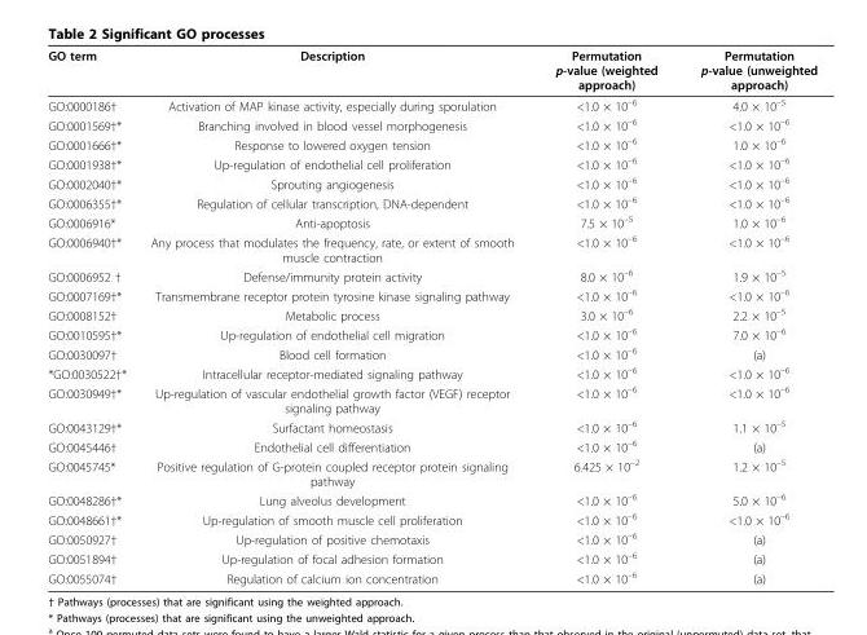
<table><thead><tr><td>GO term</td><td>Description</td><td>Permutation p-value (weighted approach)</td><td>Permutation p-value (unweighted approach)</td></tr></thead><tbody><tr><td>GO:0000186†</td><td>Activation of MAP kinase activity, especially during sporulation</td><td>&lt;1.0 × 10<sup>–6</sup></td><td>4.0 × 10<sup>–5</sup></td></tr><tr><td>GO:0001569†*</td><td>Branching involved in blood vessel morphogenesis</td><td>&lt;1.0 × 10<sup>–6</sup></td><td>&lt;1.0 × 10<sup>–6</sup></td></tr><tr><td>GO:0001666†*</td><td>Response to lowered oxygen tension</td><td>&lt;1.0 × 10<sup>–6</sup></td><td>1.0 × 10<sup>–6</sup></td></tr><tr><td>GO:0001938†*</td><td>Up-regulation of endothelial cell proliferation</td><td>&lt;1.0 × 10<sup>–6</sup></td><td>&lt;1.0 × 10<sup>–6</sup></td></tr><tr><td>GO:0002040†*</td><td>Sprouting angiogenesis</td><td>&lt;1.0 × 10<sup>–6</sup></td><td>&lt;1.0 × 10<sup>–6</sup></td></tr><tr><td>GO:0006355†*</td><td>Regulation of cellular transcription, DNA-dependent</td><td>&lt;1.0 × 10<sup>–6</sup></td><td>&lt;1.0 × 10<sup>–6</sup></td></tr><tr><td>GO:0006916*</td><td>Anti-apoptosis</td><td>7.5 × 10<sup>–5</sup></td><td>1.0 × 10<sup>–6</sup></td></tr><tr><td>GO:0006940†*</td><td>Any process that modulates the frequency, rate, or extent of smooth muscle contraction</td><td>&lt;1.0 × 10<sup>–6</sup></td><td>&lt;1.0 × 10<sup>–6</sup></td></tr><tr><td>GO:0006952 †</td><td>Defense/immunity protein activity</td><td>8.0 × 10<sup>–6</sup></td><td>1.9 × 10<sup>–5</sup></td></tr><tr><td>GO:0007169†*</td><td>Transmembrane receptor protein tyrosine kinase signaling pathway</td><td>&lt;1.0 × 10<sup>–6</sup></td><td>&lt;1.0 × 10<sup>–6</sup></td></tr><tr><td>GO:0008152†</td><td>Metabolic process</td><td>3.0 × 10<sup>–6</sup></td><td>2.2 × 10<sup>–5</sup></td></tr><tr><td>GO:0010595†*</td><td>Up-regulation of endothelial cell migration</td><td>&lt;1.0 × 10<sup>–6</sup></td><td>7.0 × 10<sup>–6</sup></td></tr><tr><td>GO:0030097†</td><td>Blood cell formation</td><td>&lt;1.0 × 10<sup>–6</sup></td><td>(a)</td></tr><tr><td>*GO:0030522†*</td><td>Intracellular receptor-mediated signaling pathway</td><td>&lt;1.0 × 10<sup>–6</sup></td><td>&lt;1.0 × 10<sup>–6</sup></td></tr><tr><td>GO:0030949†*</td><td>Up-regulation of vascular endothelial growth factor (VEGF) receptor signaling pathway</td><td>&lt;1.0 × 10<sup>–6</sup></td><td>&lt;1.0 × 10<sup>–6</sup></td></tr><tr><td>GO:0043129†*</td><td>Surfactant homeostasis</td><td>&lt;1.0 × 10<sup>–6</sup></td><td>1.1 × 10<sup>–5</sup></td></tr><tr><td>GO:0045446†</td><td>Endothelial cell differentiation</td><td>&lt;1.0 × 10<sup>–6</sup></td><td>(a)</td></tr><tr><td>GO:0045745*</td><td>Positive regulation of G-protein coupled receptor protein signaling pathway</td><td>6.425 × 10<sup>–2</sup></td><td>1.2 × 10<sup>–5</sup></td></tr><tr><td>GO:0048286†*</td><td>Lung alveolus development</td><td>&lt;1.0 × 10<sup>–6</sup></td><td>5.0 × 10<sup>–6</sup></td></tr><tr><td>GO:0048661†*</td><td>Up-regulation of smooth muscle cell proliferation</td><td>&lt;1.0 × 10<sup>–6</sup></td><td>&lt;1.0 × 10<sup>–6</sup></td></tr><tr><td>GO:0050927†</td><td>Up-regulation of positive chemotaxis</td><td>&lt;1.0 × 10<sup>–6</sup></td><td>(a)</td></tr><tr><td>GO:0051894†</td><td>Up-regulation of focal adhesion formation</td><td>&lt;1.0 × 10<sup>–6</sup></td><td>(a)</td></tr><tr><td>GO:0055074†</td><td>Regulation of calcium ion concentration</td><td>&lt;1.0 × 10<sup>–6</sup></td><td>(a)</td></tr></tbody></table>